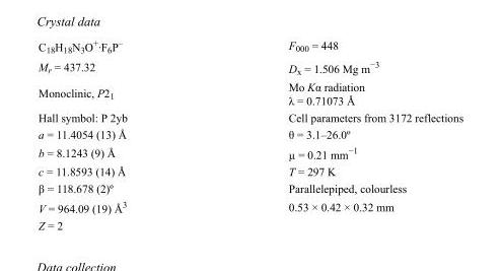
<table><tbody><tr><td>C<sub>18</sub>H<sub>18</sub>N<sub>3</sub>O<sup>+</sup>·F<sub>6</sub>P<sup>–</sup></td><td>F000 = 448</td></tr><tr><td>M<sub>r</sub> = 437.32</td><td>D<sub>x</sub> = 1.506 Mg m<sup>−3</sup></td></tr><tr><td>Monoclinic, P2<sub>1</sub></td><td>Mo Kα radiation λ = 0.71073 Å</td></tr><tr><td>Hall symbol: P 2yb</td><td>Cell parameters from 3172 reflections</td></tr><tr><td>a = 11.4054 (13) Å</td><td>θ = 3.1–26.0º</td></tr><tr><td>b = 8.1243 (9) Å</td><td>µ = 0.21 mm<sup>−1</sup></td></tr><tr><td>c = 11.8593 (14) Å</td><td>T = 297 K</td></tr><tr><td>β = 118.678 (2)º</td><td>Parallelepiped, colourless</td></tr><tr><td>V = 964.09 (19) Å<sup>3</sup></td><td>0.53 × 0.42 × 0.32 mm</td></tr><tr><td>Z = 2</td><td></td></tr></tbody></table>